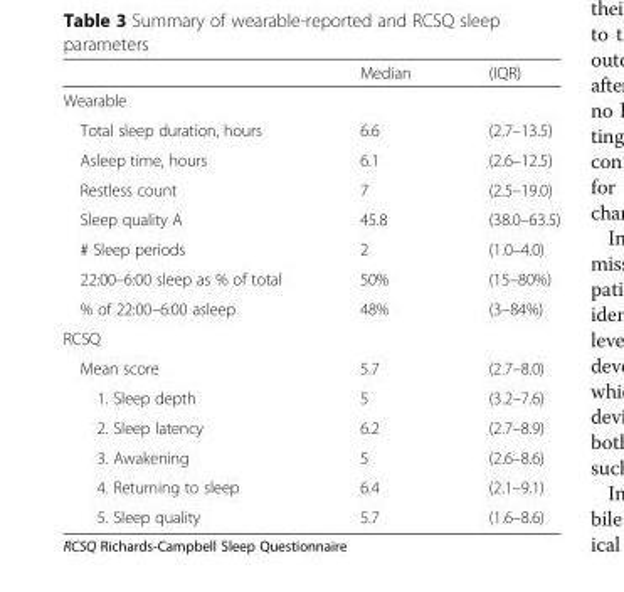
<table><thead><tr><td></td><td>Median</td><td>(IQR)</td></tr></thead><tbody><tr><td colspan="3">Wearable</td></tr><tr><td>Total sleep duration, hours</td><td>6.6</td><td>(2.7–13.5)</td></tr><tr><td>Asleep time, hours</td><td>6.1</td><td>(2.6–12.5)</td></tr><tr><td>Restless count</td><td>7</td><td>(2.5–19.0)</td></tr><tr><td>Sleep quality A</td><td>45.8</td><td>(38.0–63.5)</td></tr><tr><td># Sleep periods</td><td>2</td><td>(1.0–4.0)</td></tr><tr><td>22:00–6:00 sleep as % of total</td><td>50%</td><td>(15–80%)</td></tr><tr><td>% of 22:00–6:00 asleep</td><td>48%</td><td>(3–84%)</td></tr><tr><td colspan="3">RCSQ</td></tr><tr><td>Mean score</td><td>5.7</td><td>(2.7–8.0)</td></tr><tr><td>1. Sleep depth</td><td>5</td><td>(3.2–7.6)</td></tr><tr><td>2. Sleep latency</td><td>6.2</td><td>(2.7–8.9)</td></tr><tr><td>3. Awakening</td><td>5</td><td>(2.6–8.6)</td></tr><tr><td>4. Returning to sleep</td><td>6.4</td><td>(2.1–9.1)</td></tr><tr><td>5. Sleep quality</td><td>5.7</td><td>(1.6–8.6)</td></tr></tbody></table>